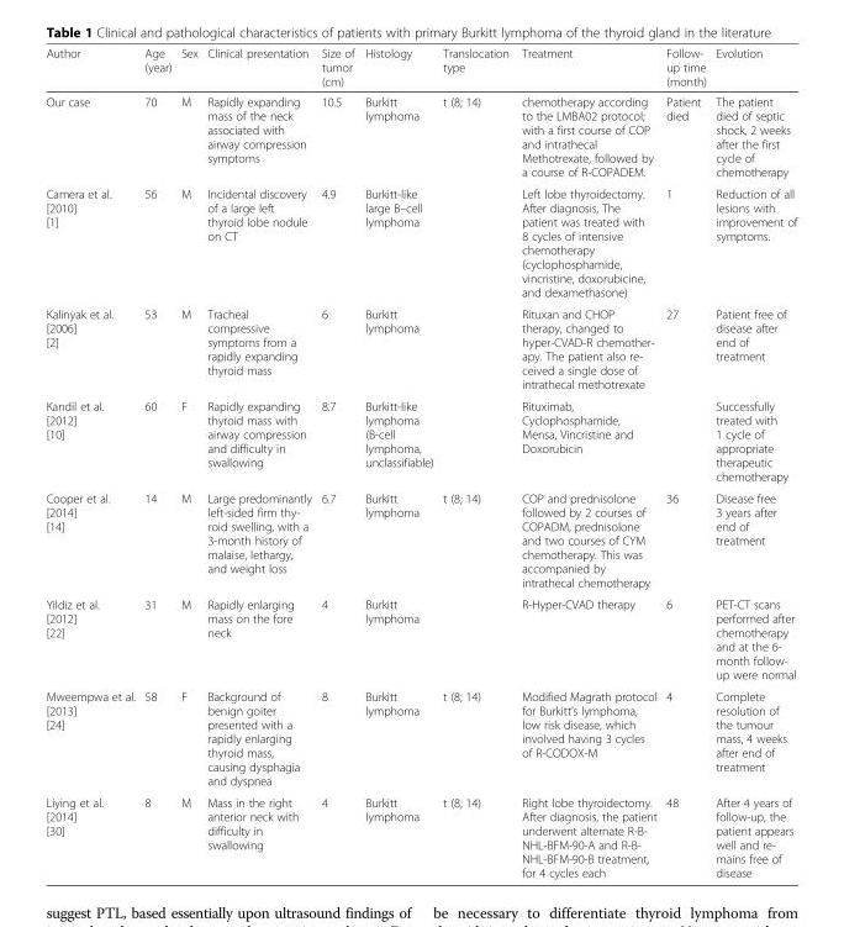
<table><thead><tr><td>Author</td><td>Age (year)</td><td>Sex</td><td>Clinical presentation</td><td>Size of tumor (cm)</td><td>Histology</td><td>Translocation type</td><td>Treatment</td><td>Follow- up time (month)</td><td>Evolution</td></tr></thead><tbody><tr><td>Our case</td><td>70</td><td>M</td><td>Rapidly expanding mass of the neck associated with airway compression symptoms</td><td>10.5</td><td>Burkitt lymphoma</td><td>t (8; 14)</td><td>chemotherapy according to the LMBA02 protocol; with a first course of COP and intrathecal Methotrexate, followed by a course of R-COPADEM.</td><td>Patient died</td><td>The patient died of septic shock, 2 weeks after the first cycle of chemotherapy</td></tr><tr><td>Camera et al. [2010] [1]</td><td>56</td><td>M</td><td>Incidental discovery of a large left thyroid lobe nodule on CT</td><td>4.9</td><td>Burkitt-like large B–cell lymphoma</td><td></td><td>Left lobe thyroidectomy. After diagnosis, The patient was treated with 8 cycles of intensive chemotherapy (cyclophosphamide, vincristine, doxorubicine, and dexamethasone)</td><td>1</td><td>Reduction of all lesions with improvement of symptoms.</td></tr><tr><td>Kalinyak et al. [2006] [2]</td><td>53</td><td>M</td><td>Tracheal compressive symptoms from a rapidly expanding thyroid mass</td><td>6</td><td>Burkitt lymphoma</td><td></td><td>Rituxan and CHOP therapy, changed to hyper-CVAD-R chemother- apy. The patient also re- ceived a single dose of intrathecal methotrexate</td><td>27</td><td>Patient free of disease after end of treatment</td></tr><tr><td>Kandil et al. [2012] [10]</td><td>60</td><td>F</td><td>Rapidly expanding thyroid mass with airway compression and difficulty in swallowing</td><td>8.7</td><td>Burkitt-like lymphoma (B-cell lymphoma, unclassifiable)</td><td></td><td>Rituximab, Cyclophosphamide, Mensa, Vincristine and Doxorubicin</td><td></td><td>Successfully treated with 1 cycle of appropriate therapeutic chemotherapy</td></tr><tr><td>Cooper et al. [2014] [14]</td><td>14</td><td>M</td><td>Large predominantly left-sided firm thy- roid swelling, with a 3-month history of malaise, lethargy, and weight loss</td><td>6.7</td><td>Burkitt lymphoma</td><td>t (8; 14)</td><td>COP and prednisolone followed by 2 courses of COPADM, prednisolone and two courses of CYM chemotherapy. This was accompanied by intrathecal chemotherapy</td><td>36</td><td>Disease free 3 years after end of treatment</td></tr><tr><td>Yildiz et al. [2012] [22]</td><td>31</td><td>M</td><td>Rapidly enlarging mass on the fore neck</td><td>4</td><td>Burkitt lymphoma</td><td></td><td>R-Hyper-CVAD therapy</td><td>6</td><td>PET-CT scans performed after chemotherapy and at the 6- month follow- up were normal</td></tr><tr><td>Mweempwa et al. [2013] [24]</td><td>58</td><td>F</td><td>Background of benign goiter presented with a rapidly enlarging thyroid mass, causing dysphagia and dyspnea</td><td>8</td><td>Burkitt lymphoma</td><td>t (8; 14)</td><td>Modified Magrath protocol for Burkitt’s lymphoma, low risk disease, which involved having 3 cycles of R-CODOX-M</td><td>4</td><td>Complete resolution of the tumour mass, 4 weeks after end of treatment</td></tr><tr><td>Liying et al. [2014] [30]</td><td>8</td><td>M</td><td>Mass in the right anterior neck with difficulty in swallowing</td><td>4</td><td>Burkitt lymphoma</td><td>t (8; 14)</td><td>Right lobe thyroidectomy. After diagnosis, the patient underwent alternate R-B- NHL-BFM-90-A and R-B- NHL-BFM-90-B treatment, for 4 cycles each</td><td>48</td><td>After 4 years of follow-up, the patient appears well and re- mains free of disease</td></tr></tbody></table>